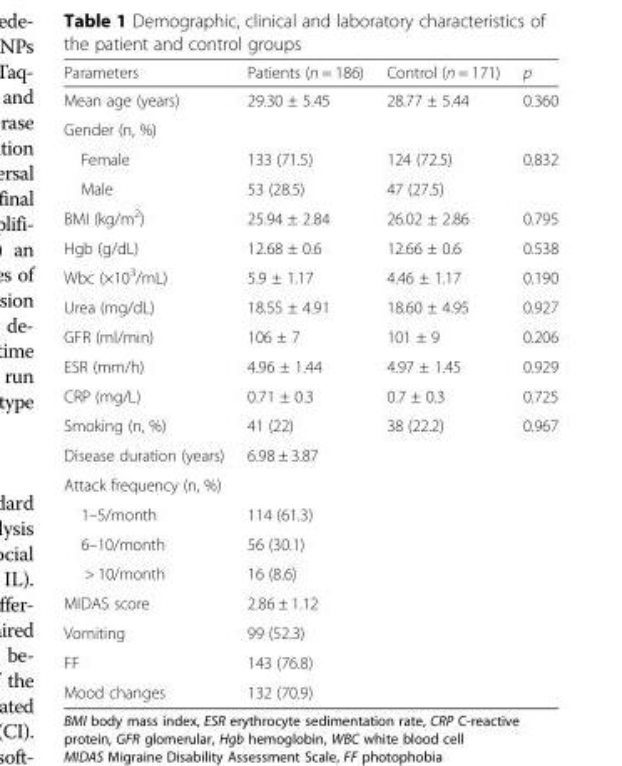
<table><thead><tr><td>Parameters</td><td>Patients (n = 186)</td><td>Control (n = 171)</td><td>p</td></tr></thead><tbody><tr><td>Mean age (years)</td><td>29.30 ± 5.45</td><td>28.77 ± 5.44</td><td>0.360</td></tr><tr><td colspan="4">Gender (n, %)</td></tr><tr><td>Female</td><td>133 (71.5)</td><td>124 (72.5)</td><td rowspan="2">0.832</td></tr><tr><td>Male</td><td>53 (28.5)</td><td>47 (27.5)</td></tr><tr><td>BMI (kg/m<sup>2</sup>)</td><td>25.94 ± 2.84</td><td>26.02 ± 2.86</td><td>0.795</td></tr><tr><td>Hgb (g/dL)</td><td>12.68 ± 0.6</td><td>12.66 ± 0.6</td><td>0.538</td></tr><tr><td>Wbc (×10<sup>3</sup>/mL)</td><td>5.9 ± 1.17</td><td>4.46 ± 1.17</td><td>0.190</td></tr><tr><td>Urea (mg/dL)</td><td>18.55 ± 4.91</td><td>18.60 ± 4.95</td><td>0.927</td></tr><tr><td>GFR (ml/min)</td><td>106 ± 7</td><td>101 ± 9</td><td>0.206</td></tr><tr><td>ESR (mm/h)</td><td>4.96 ± 1.44</td><td>4.97 ± 1.45</td><td>0.929</td></tr><tr><td>CRP (mg/L)</td><td>0.71 ± 0.3</td><td>0.7 ± 0.3</td><td>0.725</td></tr><tr><td>Smoking (n, %)</td><td>41 (22)</td><td rowspan="10">38 (22.2)</td><td rowspan="10">0.967</td></tr><tr><td>Disease duration (years)</td><td>6.98 ± 3.87</td></tr><tr><td colspan="2">Attack frequency (n, %)</td></tr><tr><td>1–5/month</td><td>114 (61.3)</td></tr><tr><td>6–10/month</td><td>56 (30.1)</td></tr><tr><td>&gt; 10/month</td><td>16 (8.6)</td></tr><tr><td>MIDAS score</td><td>2.86 ± 1.12</td></tr><tr><td>Vomiting</td><td>99 (52.3)</td></tr><tr><td>FF</td><td>143 (76.8)</td></tr><tr><td>Mood changes</td><td>132 (70.9)</td></tr></tbody></table>